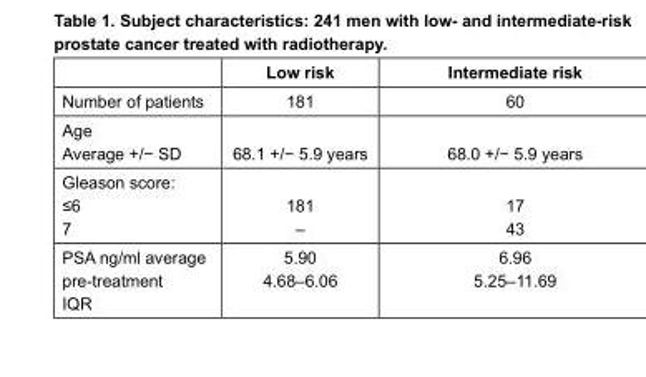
<table><thead><tr><td></td><td>Low risk</td><td>Intermediate risk</td></tr></thead><tbody><tr><td>Number of patients</td><td>181</td><td>60</td></tr><tr><td>Age Average +/− SD</td><td>68.1 +/− 5.9 years</td><td>68.0 +/− 5.9 years</td></tr><tr><td>Gleason score: ≤6 7</td><td>181 –</td><td>17 43</td></tr><tr><td>PSA ng/ml average pre-treatment IQR</td><td>5.90 4.68–6.06</td><td>6.96 5.25–11.69</td></tr></tbody></table>